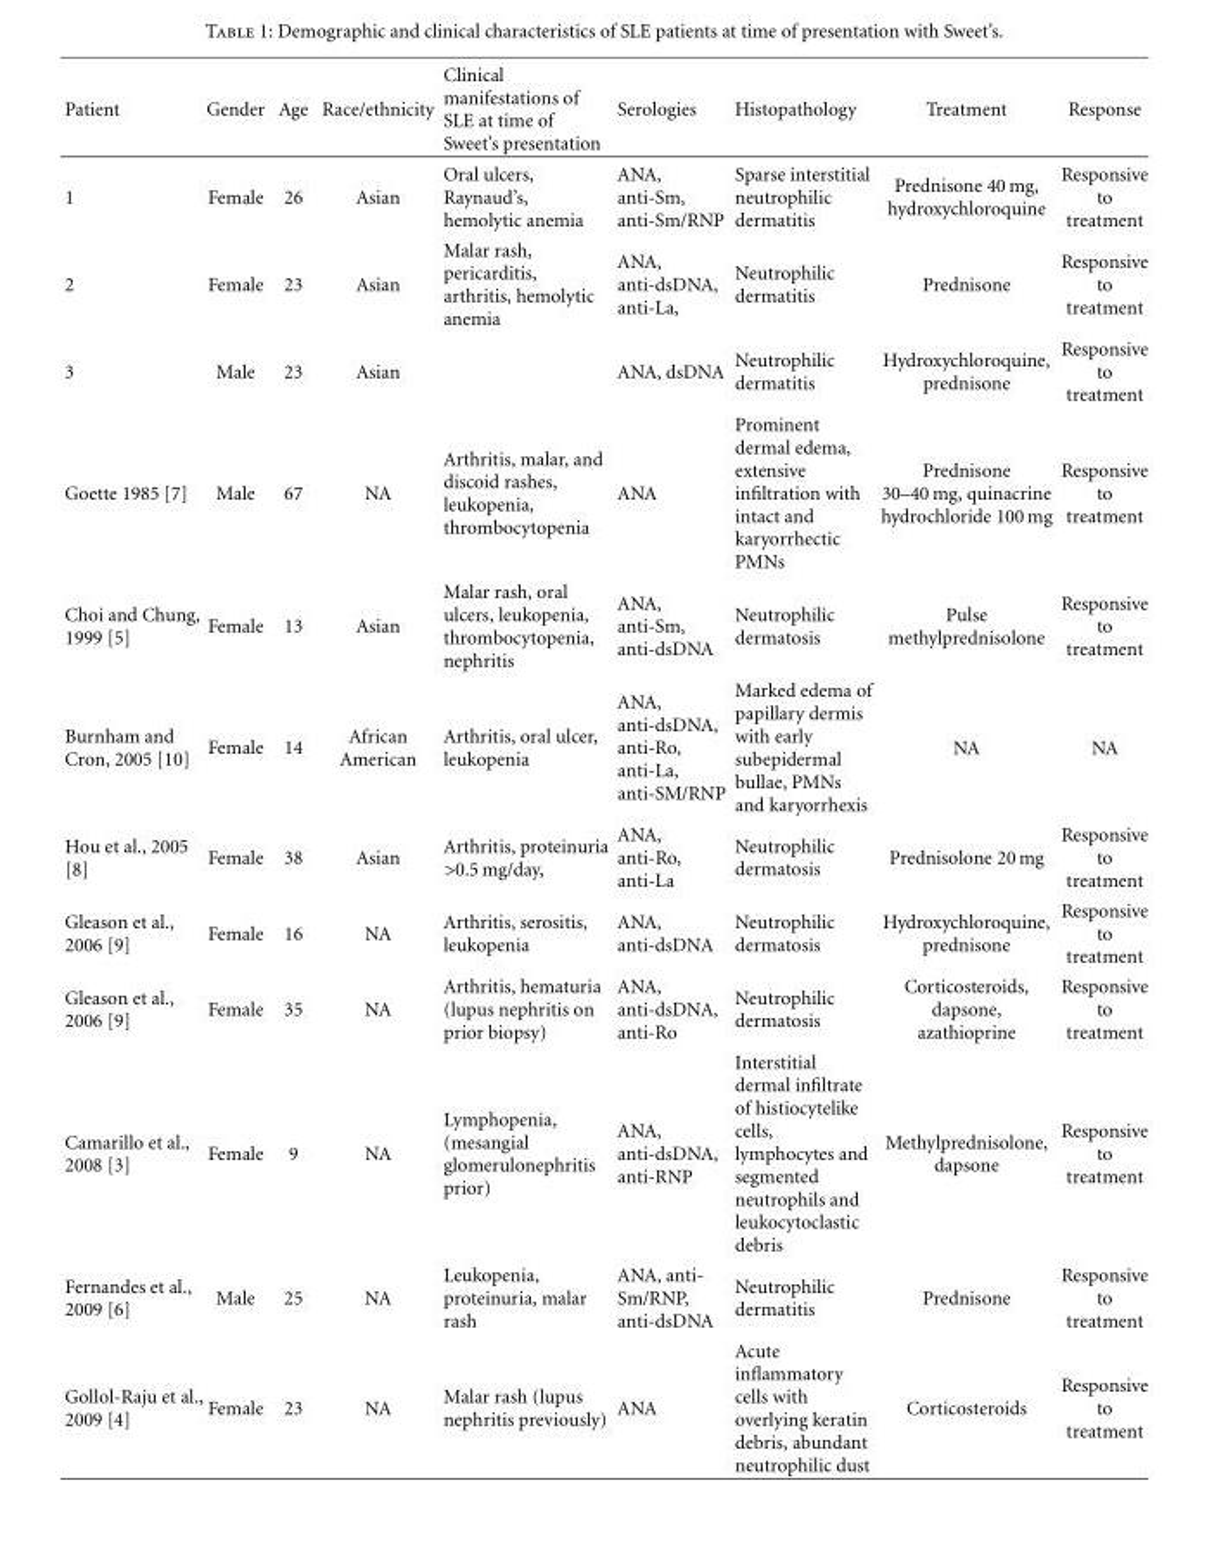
<table><thead><tr><td>Patient</td><td>Gender</td><td>Age</td><td>Race/ethnicity</td><td>Clinical manifestations of SLE at time of Sweet’s presentation</td><td>Serologies</td><td>Histopathology</td><td>Treatment</td><td>Response</td></tr></thead><tbody><tr><td>1</td><td>Female</td><td>26</td><td>Asian</td><td>Oral ulcers, Raynaud’s, hemolytic anemia</td><td>ANA, anti-Sm, anti-Sm/RNP</td><td>Sparse interstitial neutrophilic dermatitis</td><td>Prednisone 40 mg, hydroxychloroquine</td><td>Responsive to treatment</td></tr><tr><td>2</td><td>Female</td><td>23</td><td>Asian</td><td>Malar rash, pericarditis, arthritis, hemolytic anemia</td><td>ANA, anti-dsDNA, anti-La,</td><td>Neutrophilic dermatitis</td><td>Prednisone</td><td>Responsive to treatment</td></tr><tr><td>3</td><td>Male</td><td>23</td><td>Asian</td><td></td><td>ANA, dsDNA</td><td>Neutrophilic dermatitis</td><td>Hydroxychloroquine, prednisone</td><td>Responsive to treatment</td></tr><tr><td>Goette 1985 [7]</td><td>Male</td><td>67</td><td>NA</td><td>Arthritis, malar, and discoid rashes, leukopenia, thrombocytopenia</td><td>ANA</td><td>Prominent dermal edema, extensive infiltration with intact and karyorrhectic PMNs</td><td>Prednisone 30–40 mg, quinacrine hydrochloride 100 mg</td><td>Responsive to treatment</td></tr><tr><td>Choi and Chung, 1999 [5]</td><td>Female</td><td>13</td><td>Asian</td><td>Malar rash, oral ulcers, leukopenia, thrombocytopenia, nephritis</td><td>ANA, anti-Sm, anti-dsDNA</td><td>Neutrophilic dermatosis</td><td>Pulse methylprednisolone</td><td>Responsive to treatment</td></tr><tr><td>Burnham and Cron, 2005 [10]</td><td>Female</td><td>14</td><td>African American</td><td>Arthritis, oral ulcer, leukopenia</td><td>ANA, anti-dsDNA, anti-Ro, anti-La, anti-SM/RNP</td><td>Marked edema of papillary dermis with early subepidermal bullae, PMNs and karyorrhexis</td><td>NA</td><td>NA</td></tr><tr><td>Hou et al., 2005 [8]</td><td>Female</td><td>38</td><td>Asian</td><td>Arthritis, proteinuria &gt;0.5 mg/day,</td><td>ANA, anti-Ro, anti-La</td><td>Neutrophilic dermatosis</td><td>Prednisolone 20 mg</td><td>Responsive to treatment</td></tr><tr><td>Gleason et al., 2006 [9]</td><td>Female</td><td>16</td><td>NA</td><td>Arthritis, serositis, leukopenia</td><td>ANA, anti-dsDNA</td><td>Neutrophilic dermatosis</td><td>Hydroxychloroquine, prednisone</td><td>Responsive to treatment</td></tr><tr><td>Gleason et al., 2006 [9]</td><td>Female</td><td>35</td><td>NA</td><td>Arthritis, hematuria (lupus nephritis on prior biopsy)</td><td>ANA, anti-dsDNA, anti-Ro</td><td>Neutrophilic dermatosis</td><td>Corticosteroids, dapsone, azathioprine</td><td>Responsive to treatment</td></tr><tr><td>Camarillo et al., 2008 [3]</td><td>Female</td><td>9</td><td>NA</td><td>Lymphopenia, (mesangial glomerulonephritis prior)</td><td>ANA, anti-dsDNA, anti-RNP</td><td>Interstitial dermal infiltrate of histiocytelike cells, lymphocytes and segmented neutrophils and leukocytoclastic debris</td><td>Methylprednisolone, dapsone</td><td>Responsive to treatment</td></tr><tr><td>Fernandes et al., 2009 [6]</td><td>Male</td><td>25</td><td>NA</td><td>Leukopenia, proteinuria, malar rash</td><td>ANA, anti- Sm/RNP, anti-dsDNA</td><td>Neutrophilic dermatitis</td><td>Prednisone</td><td>Responsive to treatment</td></tr><tr><td>Gollol-Raju et al., 2009 [4]</td><td>Female</td><td>23</td><td>NA</td><td>Malar rash (lupus nephritis previously)</td><td>ANA</td><td>Acute inflammatory cells with overlying keratin debris, abundant neutrophilic dust</td><td>Corticosteroids</td><td>Responsive to treatment</td></tr></tbody></table>